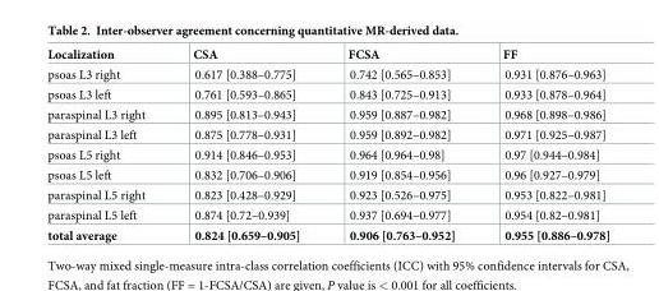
<table><thead><tr><td>Localization</td><td>CSA</td><td>FCSA</td><td>FF</td></tr></thead><tbody><tr><td>psoas L3 right</td><td>0.617 [0.388–0.775]</td><td>0.742 [0.565–0.853]</td><td>0.931 [0.876–0.963]</td></tr><tr><td>psoas L3 left</td><td>0.761 [0.593–0.865]</td><td>0.843 [0.725–0.913]</td><td>0.933 [0.878–0.964]</td></tr><tr><td>paraspinal L3 right</td><td>0.895 [0.813–0.943]</td><td>0.959 [0.887–0.982]</td><td>0.968 [0.898–0.986]</td></tr><tr><td>paraspinal L3 left</td><td>0.875 [0.778–0.931]</td><td>0.959 [0.892–0.982]</td><td>0.971 [0.925–0.987]</td></tr><tr><td>psoas L5 right</td><td>0.914 [0.846–0.953]</td><td>0.964 [0.964–0.98]</td><td>0.97 [0.944–0.984]</td></tr><tr><td>psoas L5 left</td><td>0.832 [0.706–0.906]</td><td>0.919 [0.854–0.956]</td><td>0.96 [0.927–0.979]</td></tr><tr><td>paraspinal L5 right</td><td>0.823 [0.428–0.929]</td><td>0.923 [0.526–0.975]</td><td>0.953 [0.822–0.981]</td></tr><tr><td>paraspinal L5 left</td><td>0.874 [0.72–0.939]</td><td>0.937 [0.694–0.977]</td><td>0.954 [0.82–0.981]</td></tr><tr><td>total average</td><td>0.824 [0.659–0.905]</td><td>0.906 [0.763–0.952]</td><td>0.955 [0.886–0.978]</td></tr></tbody></table>